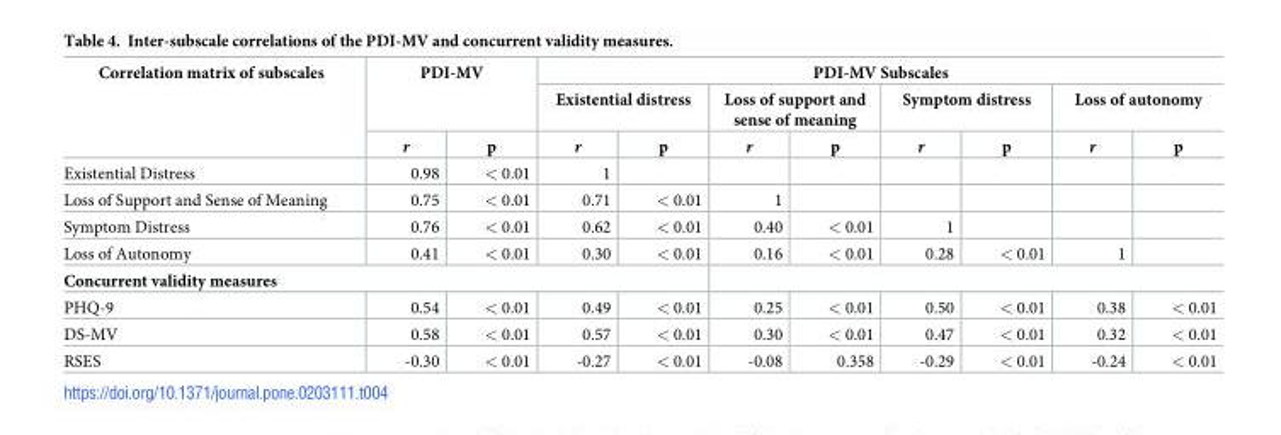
<table><thead><tr><td rowspan="3">Correlation matrix of subscales</td><td rowspan="2" colspan="2">PDI-MV</td><td colspan="8">PDI-MV Subscales</td></tr><tr><td colspan="2">Existential distress</td><td colspan="2">Loss of support and sense of meaning</td><td colspan="2">Symptom distress</td><td colspan="2">Loss of autonomy</td></tr><tr><td>r</td><td>p</td><td>r</td><td>p</td><td>r</td><td>p</td><td>r</td><td>p</td><td>r</td><td>p</td></tr></thead><tbody><tr><td>Existential Distress</td><td>0.98</td><td>&lt; 0.01</td><td>1</td><td></td><td></td><td></td><td></td><td></td><td></td><td></td></tr><tr><td>Loss of Support and Sense of Meaning</td><td>0.75</td><td>&lt; 0.01</td><td>0.71</td><td>&lt; 0.01</td><td>1</td><td></td><td></td><td></td><td></td><td></td></tr><tr><td>Symptom Distress</td><td>0.76</td><td>&lt; 0.01</td><td>0.62</td><td>&lt; 0.01</td><td>0.40</td><td>&lt; 0.01</td><td>1</td><td></td><td></td><td></td></tr><tr><td>Loss of Autonomy</td><td>0.41</td><td>&lt; 0.01</td><td>0.30</td><td>&lt; 0.01</td><td>0.16</td><td>&lt; 0.01</td><td>0.28</td><td>&lt; 0.01</td><td>1</td><td></td></tr><tr><td colspan="11">Concurrent validity measures</td></tr><tr><td>PHQ-9</td><td>0.54</td><td>&lt; 0.01</td><td>0.49</td><td>&lt; 0.01</td><td>0.25</td><td>&lt; 0.01</td><td>0.50</td><td>&lt; 0.01</td><td>0.38</td><td>&lt; 0.01</td></tr><tr><td>DS-MV</td><td>0.58</td><td>&lt; 0.01</td><td>0.57</td><td>&lt; 0.01</td><td>0.30</td><td>&lt; 0.01</td><td>0.47</td><td>&lt; 0.01</td><td>0.32</td><td>&lt; 0.01</td></tr><tr><td>RSES</td><td>-0.30</td><td>&lt; 0.01</td><td>-0.27</td><td>&lt; 0.01</td><td>-0.08</td><td>0.358</td><td>-0.29</td><td>&lt; 0.01</td><td>-0.24</td><td>&lt; 0.01</td></tr></tbody></table>